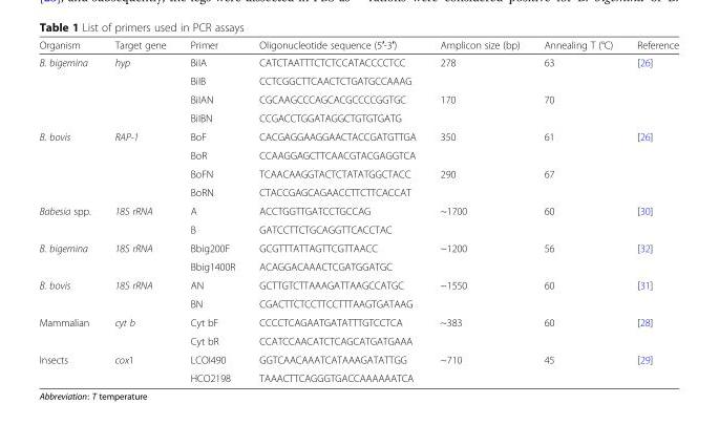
<table><thead><tr><td>Organism</td><td>Target gene</td><td>Primer</td><td>Oligonucleotide sequence (5′-3′)</td><td>Amplicon size (bp)</td><td>Annealing T (°C)</td><td>Reference</td></tr></thead><tbody><tr><td rowspan="4">B. bigemina</td><td rowspan="4">hyp</td><td>BiIA</td><td>CATCTAATTTCTCTCCATACCCCTCC</td><td rowspan="2">278</td><td rowspan="2">63</td><td rowspan="4">[26]</td></tr><tr><td>BiIB</td><td>CCTCGGCTTCAACTCTGATGCCAAAG</td></tr><tr><td>BiIAN</td><td>CGCAAGCCCAGCACGCCCCGGTGC</td><td rowspan="2">170</td><td rowspan="2">70</td></tr><tr><td>BiIBN</td><td>CCGACCTGGATAGGCTGTGTGATG</td></tr><tr><td rowspan="4">B. bovis</td><td rowspan="4">RAP-1</td><td>BoF</td><td>CACGAGGAAGGAACTACCGATGTTGA</td><td rowspan="2">350</td><td rowspan="2">61</td><td rowspan="4">[26]</td></tr><tr><td>BoR</td><td>CCAAGGAGCTTCAACGTACGAGGTCA</td></tr><tr><td>BoFN</td><td>TCAACAAGGTACTCTATATGGCTACC</td><td rowspan="2">290</td><td rowspan="2">67</td></tr><tr><td>BoRN</td><td>CTACCGAGCAGAACCTTCTTCACCAT</td></tr><tr><td rowspan="2">Babesia spp.</td><td rowspan="2">18S rRNA</td><td>A</td><td>ACCTGGTTGATCCTGCCAG</td><td rowspan="2">~1700</td><td rowspan="2">60</td><td rowspan="2">[30]</td></tr><tr><td>B</td><td>GATCCTTCTGCAGGTTCACCTAC</td></tr><tr><td rowspan="2">B. bigemina</td><td rowspan="2">18S rRNA</td><td>Bbig200F</td><td>GCGTTTATTAGTTCGTTAACC</td><td rowspan="2">~1200</td><td rowspan="2">56</td><td rowspan="2">[32]</td></tr><tr><td>Bbig1400R</td><td>ACAGGACAAACTCGATGGATGC</td></tr><tr><td rowspan="2">B. bovis</td><td rowspan="2">18S rRNA</td><td>AN</td><td>GCTTGTCTTAAAGATTAAGCCATGC</td><td rowspan="2">~1550</td><td rowspan="2">60</td><td rowspan="2">[31]</td></tr><tr><td>BN</td><td>CGACTTCTCCTTCCTTTAAGTGATAAG</td></tr><tr><td rowspan="2">Mammalian</td><td rowspan="2">cyt b</td><td>Cyt bF</td><td>CCCCTCAGAATGATATTTGTCCTCA</td><td rowspan="2">~383</td><td rowspan="2">60</td><td rowspan="2">[28]</td></tr><tr><td>Cyt bR</td><td>CCATCCAACATCTCAGCATGATGAAA</td></tr><tr><td rowspan="2">Insects</td><td rowspan="2">cox1</td><td>LCOI490</td><td>GGTCAACAAATCATAAAGATATTGG</td><td rowspan="2">~710</td><td rowspan="2">45</td><td rowspan="2">[29]</td></tr><tr><td>HCO2198</td><td>TAAACTTCAGGGTGACCAAAAAATCA</td></tr></tbody></table>